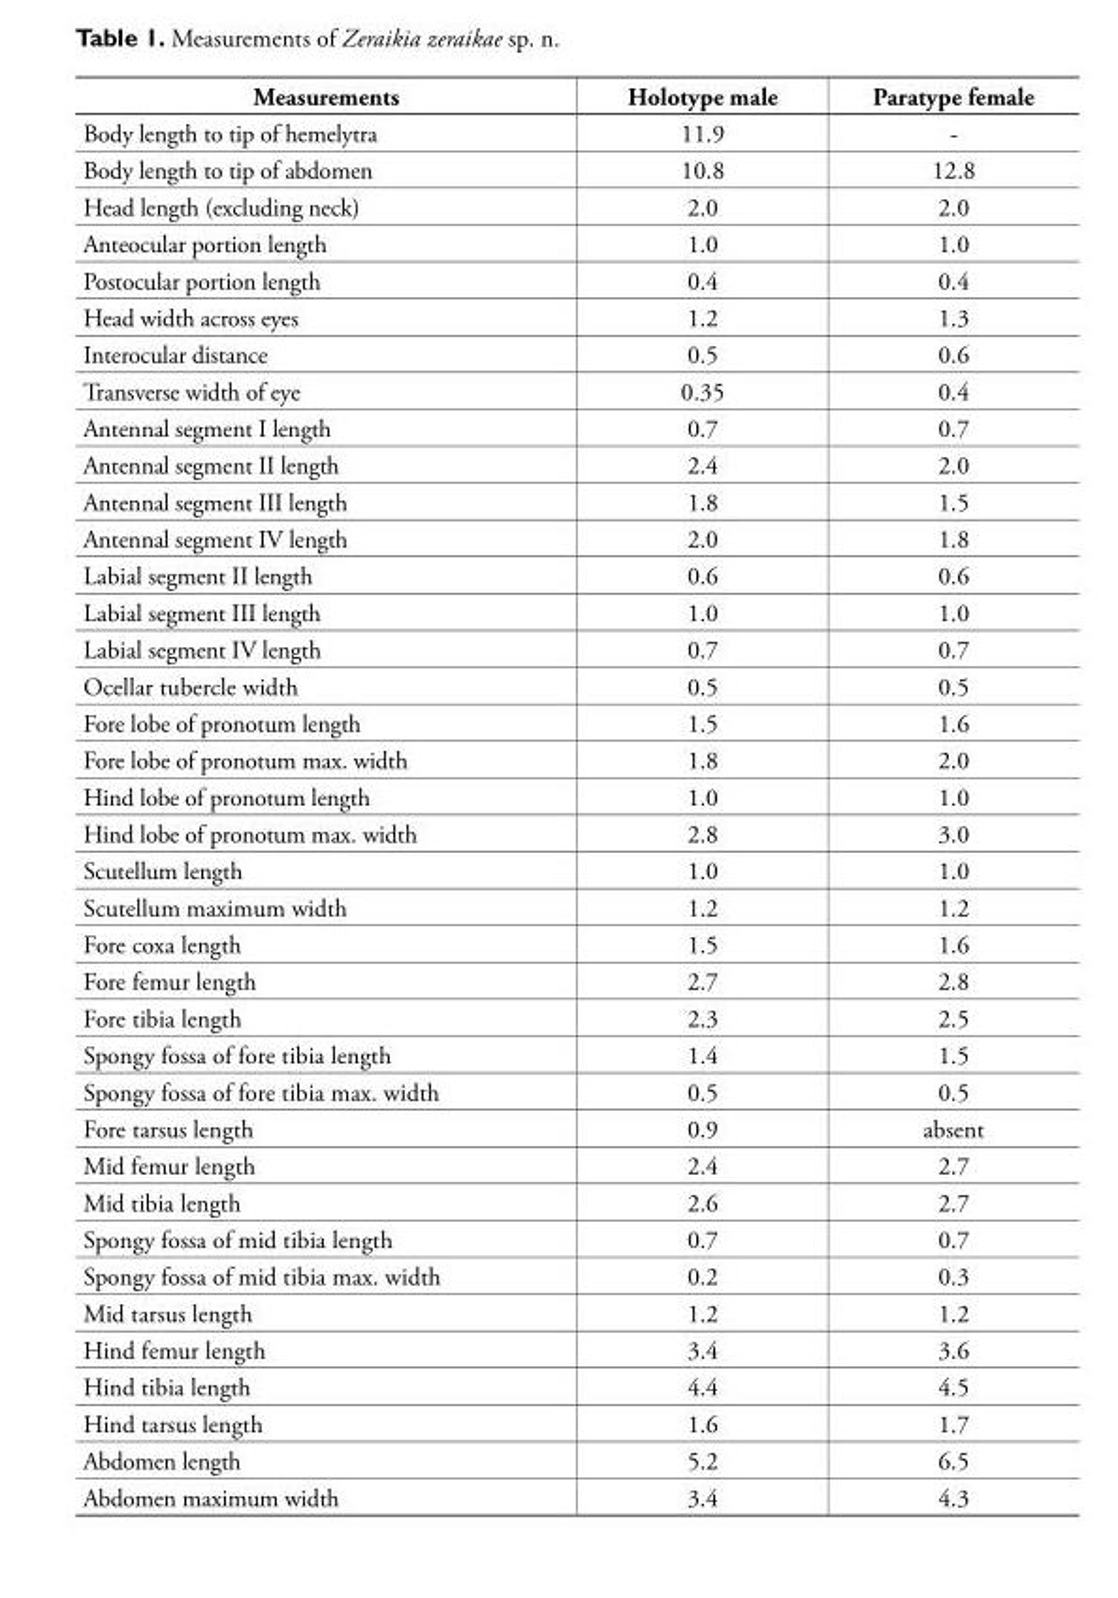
<table><tbody><tr><td>Measurements</td><td>Holotype male</td><td>Paratype female</td></tr><tr><td>Body length to tip of hemelytra</td><td>11.9</td><td>-</td></tr><tr><td>Body length to tip of abdomen</td><td>10.8</td><td>12.8</td></tr><tr><td>Head length (excluding neck)</td><td>2.0</td><td>2.0</td></tr><tr><td>Anteocular portion length</td><td>1.0</td><td>1.0</td></tr><tr><td>Postocular portion length</td><td>0.4</td><td>0.4</td></tr><tr><td>Head width across eyes</td><td>1.2</td><td>1.3</td></tr><tr><td>Interocular distance</td><td>0.5</td><td>0.6</td></tr><tr><td>Transverse width of eye</td><td>0.35</td><td>0.4</td></tr><tr><td>Antennal segment I length</td><td>0.7</td><td>0.7</td></tr><tr><td>Antennal segment II length</td><td>2.4</td><td>2.0</td></tr><tr><td>Antennal segment III length</td><td>1.8</td><td>1.5</td></tr><tr><td>Antennal segment IV length</td><td>2.0</td><td>1.8</td></tr><tr><td>Labial segment II length</td><td>0.6</td><td>0.6</td></tr><tr><td>Labial segment III length</td><td>1.0</td><td>1.0</td></tr><tr><td>Labial segment IV length</td><td>0.7</td><td>0.7</td></tr><tr><td>Ocellar tubercle width</td><td>0.5</td><td>0.5</td></tr><tr><td>Fore lobe of pronotum length</td><td>1.5</td><td>1.6</td></tr><tr><td>Fore lobe of pronotum max. width</td><td>1.8</td><td>2.0</td></tr><tr><td>Hind lobe of pronotum length</td><td>1.0</td><td>1.0</td></tr><tr><td>Hind lobe of pronotum max. width</td><td>2.8</td><td>3.0</td></tr><tr><td>Scutellum length</td><td>1.0</td><td>1.0</td></tr><tr><td>Scutellum maximum width</td><td>1.2</td><td>1.2</td></tr><tr><td>Fore coxa length</td><td>1.5</td><td>1.6</td></tr><tr><td>Fore femur length</td><td>2.7</td><td>2.8</td></tr><tr><td>Fore tibia length</td><td>2.3</td><td>2.5</td></tr><tr><td>Spongy fossa of fore tibia length</td><td>1.4</td><td>1.5</td></tr><tr><td>Spongy fossa of fore tibia max. width</td><td>0.5</td><td>0.5</td></tr><tr><td>Fore tarsus length</td><td>0.9</td><td>absent</td></tr><tr><td>Mid femur length</td><td>2.4</td><td>2.7</td></tr><tr><td>Mid tibia length</td><td>2.6</td><td>2.7</td></tr><tr><td>Spongy fossa of mid tibia length</td><td>0.7</td><td>0.7</td></tr><tr><td>Spongy fossa of mid tibia max. width</td><td>0.2</td><td>0.3</td></tr><tr><td>Mid tarsus length</td><td>1.2</td><td>1.2</td></tr><tr><td>Hind femur length</td><td>3.4</td><td>3.6</td></tr><tr><td>Hind tibia length</td><td>4.4</td><td>4.5</td></tr><tr><td>Hind tarsus length</td><td>1.6</td><td>1.7</td></tr><tr><td>Abdomen length</td><td>5.2</td><td>6.5</td></tr><tr><td>Abdomen maximum width</td><td>3.4</td><td>4.3</td></tr></tbody></table>